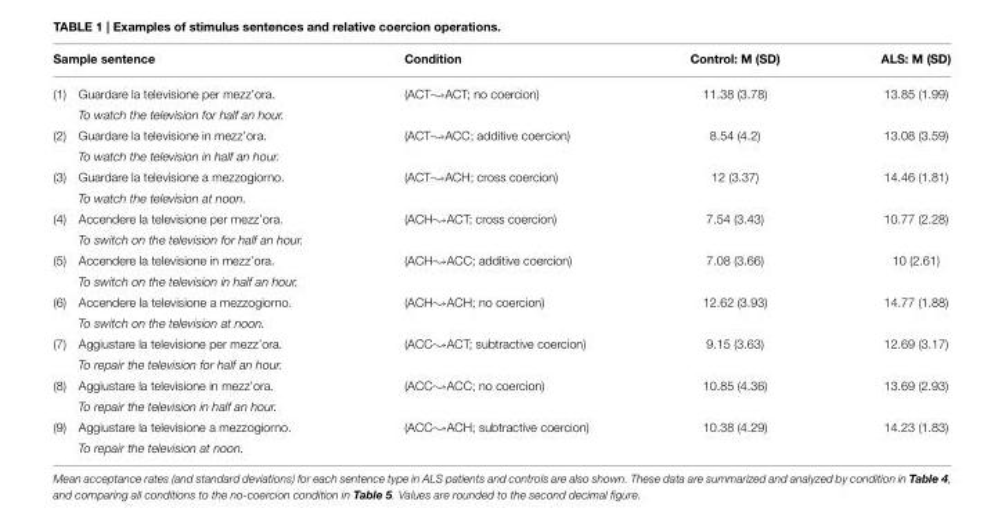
<table><thead><tr><td>Sample sentence</td><td>Condition</td><td>Control: M (SD)</td><td>ALS: M (SD)</td></tr></thead><tbody><tr><td>(1) Guardare la televisione per mezz’ora.</td><td>(ACT↝ACT; no coercion)</td><td>11.38 (3.78)</td><td>13.85 (1.99)</td></tr><tr><td colspan="4">To watch the television for half an hour.</td></tr><tr><td>(2) Guardare la televisione in mezz’ora.</td><td>(ACT↝ACC; additive coercion)</td><td>8.54 (4.2)</td><td>13.08 (3.59)</td></tr><tr><td colspan="4">To watch the television in half an hour.</td></tr><tr><td>(3) Guardare la televisione a mezzogiorno.</td><td>(ACT↝ACH; cross coercion)</td><td>12 (3.37)</td><td>14.46 (1.81)</td></tr><tr><td colspan="4">To watch the television at noon.</td></tr><tr><td>(4) Accendere la televisione per mezz’ora.</td><td>(ACH↝ACT; cross coercion)</td><td>7.54 (3.43)</td><td>10.77 (2.28)</td></tr><tr><td colspan="4">To switch on the television for half an hour.</td></tr><tr><td>(5) Accendere la televisione in mezz’ora.</td><td>(ACH↝ACC; additive coercion)</td><td>7.08 (3.66)</td><td>10 (2.61)</td></tr><tr><td colspan="4">To switch on the television in half an hour.</td></tr><tr><td>(6) Accendere la televisione a mezzogiorno.</td><td>(ACH↝ACH; no coercion)</td><td>12.62 (3.93)</td><td>14.77 (1.88)</td></tr><tr><td colspan="4">To switch on the television at noon.</td></tr><tr><td>(7) Aggiustare la televisione per mezz’ora.</td><td>(ACC↝ACT; subtractive coercion)</td><td>9.15 (3.63)</td><td>12.69 (3.17)</td></tr><tr><td colspan="4">To repair the television for half an hour.</td></tr><tr><td>(8) Aggiustare la televisione in mezz’ora.</td><td>(ACC↝ACC; no coercion)</td><td>10.85 (4.36)</td><td>13.69 (2.93)</td></tr><tr><td colspan="4">To repair the television in half an hour.</td></tr><tr><td>(9) Aggiustare la televisione a mezzogiorno.</td><td>(ACC↝ACH; subtractive coercion)</td><td>10.38 (4.29)</td><td>14.23 (1.83)</td></tr><tr><td>To repair the television at noon.</td><td></td><td></td><td></td></tr></tbody></table>